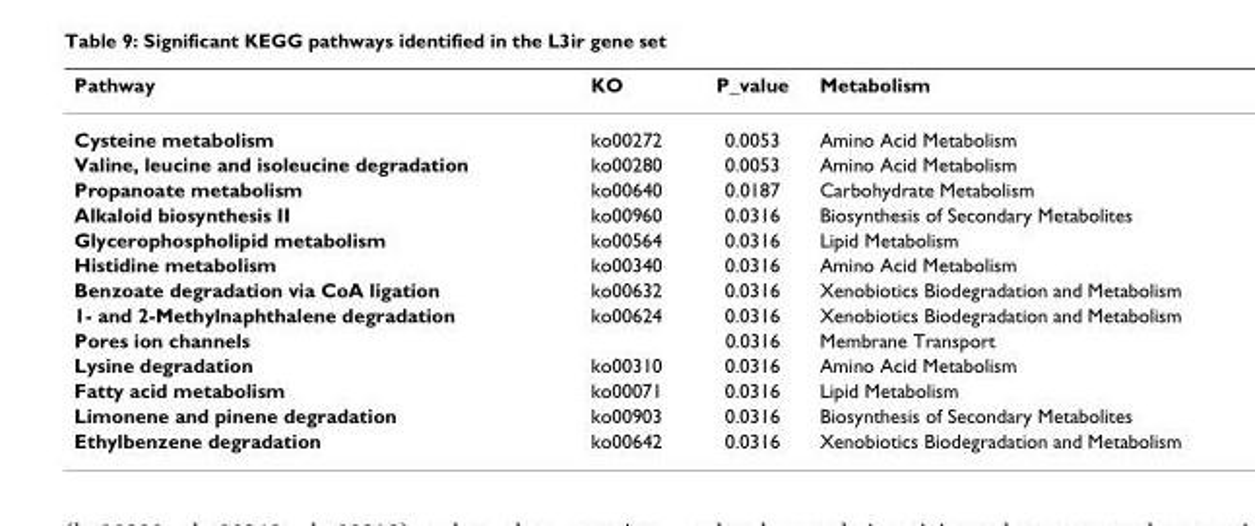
<table><thead><tr><td>Pathway</td><td>KO</td><td>P_value</td><td>Metabolism</td></tr></thead><tbody><tr><td>Cysteine metabolism</td><td>ko00272</td><td>0.0053</td><td>Amino Acid Metabolism</td></tr><tr><td>Valine, leucine and isoleucine degradation</td><td>ko00280</td><td>0.0053</td><td>Amino Acid Metabolism</td></tr><tr><td>Propanoate metabolism</td><td>ko00640</td><td>0.0187</td><td>Carbohydrate Metabolism</td></tr><tr><td>Alkaloid biosynthesis II</td><td>ko00960</td><td>0.0316</td><td>Biosynthesis of Secondary Metabolites</td></tr><tr><td>Glycerophospholipid metabolism</td><td>ko00564</td><td>0.0316</td><td>Lipid Metabolism</td></tr><tr><td>Histidine metabolism</td><td>ko00340</td><td>0.0316</td><td>Amino Acid Metabolism</td></tr><tr><td>Benzoate degradation via CoA ligation</td><td>ko00632</td><td>0.0316</td><td>Xenobiotics Biodegradation and Metabolism</td></tr><tr><td>1- and 2-Methylnaphthalene degradation</td><td>ko00624</td><td>0.0316</td><td>Xenobiotics Biodegradation and Metabolism</td></tr><tr><td>Pores ion channels</td><td></td><td>0.0316</td><td>Membrane Transport</td></tr><tr><td>Lysine degradation</td><td>ko00310</td><td>0.0316</td><td>Amino Acid Metabolism</td></tr><tr><td>Fatty acid metabolism</td><td>ko00071</td><td>0.0316</td><td>Lipid Metabolism</td></tr><tr><td>Limonene and pinene degradation</td><td>ko00903</td><td>0.0316</td><td>Biosynthesis of Secondary Metabolites</td></tr><tr><td>Ethylbenzene degradation</td><td>ko00642</td><td>0.0316</td><td>Xenobiotics Biodegradation and Metabolism</td></tr></tbody></table>